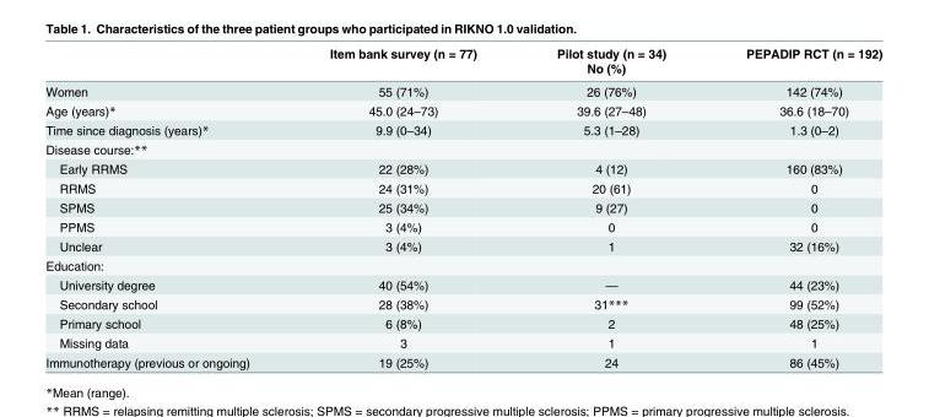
<table><thead><tr><td rowspan="2"></td><td>Item bank survey (n = 77)</td><td>Pilot study (n = 34)</td><td>PEPADIP RCT (n = 192)</td></tr><tr><td colspan="3">No (%)</td></tr></thead><tbody><tr><td>Women</td><td>55 (71%)</td><td>26 (76%)</td><td>142 (74%)</td></tr><tr><td>Age (years)*</td><td>45.0 (24–73)</td><td>39.6 (27–48)</td><td>36.6 (18–70)</td></tr><tr><td>Time since diagnosis (years)*</td><td>9.9 (0–34)</td><td>5.3 (1–28)</td><td>1.3 (0–2)</td></tr><tr><td colspan="4">Disease course:**</td></tr><tr><td>Early RRMS</td><td>22 (28%)</td><td>4 (12)</td><td>160 (83%)</td></tr><tr><td>RRMS</td><td>24 (31%)</td><td>20 (61)</td><td>0</td></tr><tr><td>SPMS</td><td>25 (34%)</td><td>9 (27)</td><td>0</td></tr><tr><td>PPMS</td><td>3 (4%)</td><td>0</td><td>0</td></tr><tr><td>Unclear</td><td>3 (4%)</td><td>1</td><td>32 (16%)</td></tr><tr><td colspan="4">Education:</td></tr><tr><td>University degree</td><td>40 (54%)</td><td>—</td><td>44 (23%)</td></tr><tr><td>Secondary school</td><td>28 (38%)</td><td>31***</td><td>99 (52%)</td></tr><tr><td>Primary school</td><td>6 (8%)</td><td>2</td><td>48 (25%)</td></tr><tr><td>Missing data</td><td>3</td><td>1</td><td>1</td></tr><tr><td>Immunotherapy (previous or ongoing)</td><td>19 (25%)</td><td>24</td><td>86 (45%)</td></tr></tbody></table>